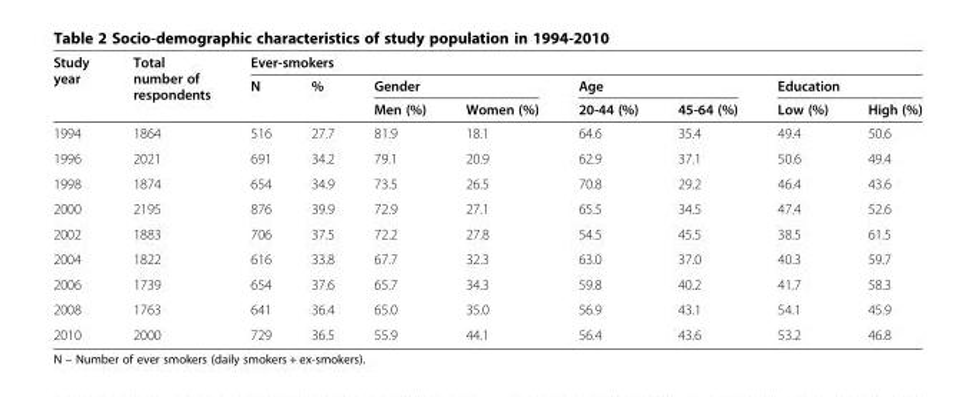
<table><thead><tr><td rowspan="3">Study year</td><td rowspan="3">Total number of respondents</td><td colspan="8">Ever-smokers</td></tr><tr><td rowspan="2">N</td><td rowspan="2">%</td><td colspan="2">Gender</td><td colspan="2">Age</td><td colspan="2">Education</td></tr><tr><td>Men (%)</td><td>Women (%)</td><td>20-44 (%)</td><td>45-64 (%)</td><td>Low (%)</td><td>High (%)</td></tr></thead><tbody><tr><td>1994</td><td>1864</td><td>516</td><td>27.7</td><td>81.9</td><td>18.1</td><td>64.6</td><td>35.4</td><td>49.4</td><td>50.6</td></tr><tr><td>1996</td><td>2021</td><td>691</td><td>34.2</td><td>79.1</td><td>20.9</td><td>62.9</td><td>37.1</td><td>50.6</td><td>49.4</td></tr><tr><td>1998</td><td>1874</td><td>654</td><td>34.9</td><td>73.5</td><td>26.5</td><td>70.8</td><td>29.2</td><td>46.4</td><td>43.6</td></tr><tr><td>2000</td><td>2195</td><td>876</td><td>39.9</td><td>72.9</td><td>27.1</td><td>65.5</td><td>34.5</td><td>47.4</td><td>52.6</td></tr><tr><td>2002</td><td>1883</td><td>706</td><td>37.5</td><td>72.2</td><td>27.8</td><td>54.5</td><td>45.5</td><td>38.5</td><td>61.5</td></tr><tr><td>2004</td><td>1822</td><td>616</td><td>33.8</td><td>67.7</td><td>32.3</td><td>63.0</td><td>37.0</td><td>40.3</td><td>59.7</td></tr><tr><td>2006</td><td>1739</td><td>654</td><td>37.6</td><td>65.7</td><td>34.3</td><td>59.8</td><td>40.2</td><td>41.7</td><td>58.3</td></tr><tr><td>2008</td><td>1763</td><td>641</td><td>36.4</td><td>65.0</td><td>35.0</td><td>56.9</td><td>43.1</td><td>54.1</td><td>45.9</td></tr><tr><td>2010</td><td>2000</td><td>729</td><td>36.5</td><td>55.9</td><td>44.1</td><td>56.4</td><td>43.6</td><td>53.2</td><td>46.8</td></tr></tbody></table>